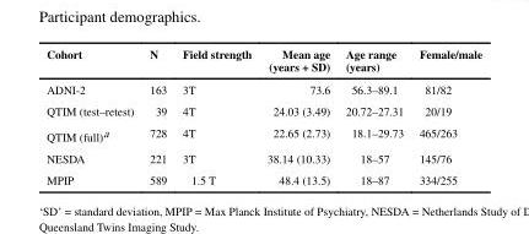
<table><thead><tr><td>Cohort</td><td>N</td><td>Field strength</td><td>Mean age (years + SD)</td><td>Age range (years)</td><td>Female/male</td></tr></thead><tbody><tr><td>ADNI-2</td><td>163</td><td>3T</td><td>73.6</td><td>56.3–89.1</td><td>81/82</td></tr><tr><td>QTIM (test–retest)</td><td>39</td><td>4T</td><td>24.03 (3.49)</td><td>20.72–27.31</td><td>20/19</td></tr><tr><td>QTIM (full)<sup>a</sup></td><td>728</td><td>4T</td><td>22.65 (2.73)</td><td>18.1–29.73</td><td>465/263</td></tr><tr><td>NESDA</td><td>221</td><td>3T</td><td>38.14 (10.33)</td><td>18–57</td><td>145/76</td></tr><tr><td>MPIP</td><td>589</td><td>1.5 T</td><td>48.4 (13.5)</td><td>18–87</td><td>334/255</td></tr></tbody></table>